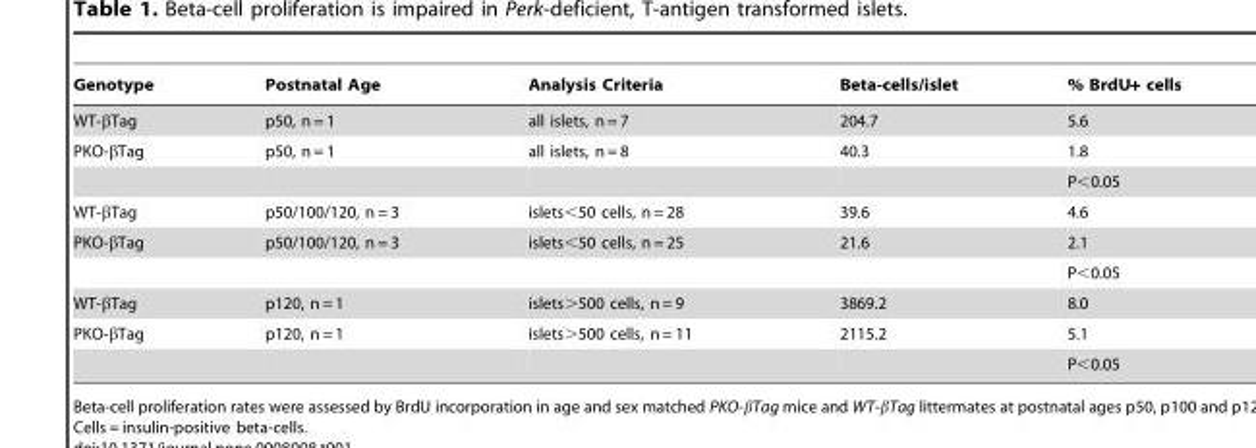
<table><thead><tr><td>Genotype</td><td>Postnatal Age</td><td>Analysis Criteria</td><td>Beta-cells/islet</td><td>% BrdU+ cells</td></tr></thead><tbody><tr><td>WT-βTag</td><td>p50, n = 1</td><td>all islets, n = 7</td><td>204.7</td><td>5.6</td></tr><tr><td rowspan="2">PKO-βTag</td><td>p50, n = 1</td><td>all islets, n = 8</td><td>40.3</td><td>1.8</td></tr><tr><td></td><td></td><td></td><td>P&lt;0.05</td></tr><tr><td>WT-βTag</td><td>p50/100/120, n = 3</td><td>islets&lt;50 cells, n = 28</td><td>39.6</td><td>4.6</td></tr><tr><td rowspan="2">PKO-βTag</td><td>p50/100/120, n = 3</td><td>islets&lt;50 cells, n = 25</td><td>21.6</td><td>2.1</td></tr><tr><td></td><td></td><td></td><td>P&lt;0.05</td></tr><tr><td>WT-βTag</td><td>p120, n = 1</td><td>islets&gt;500 cells, n = 9</td><td>3869.2</td><td>8.0</td></tr><tr><td rowspan="2">PKO-βTag</td><td>p120, n = 1</td><td>islets&gt;500 cells, n = 11</td><td>2115.2</td><td>5.1</td></tr><tr><td></td><td></td><td></td><td>P&lt;0.05</td></tr></tbody></table>